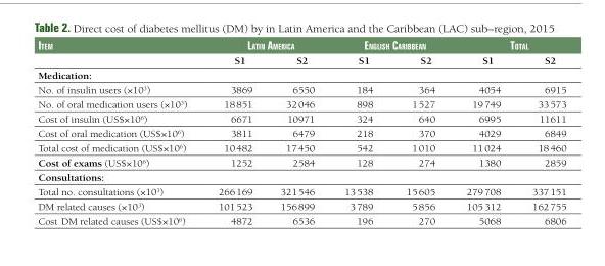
<table><thead><tr><td rowspan="2">Item</td><td colspan="2">LatIn amerIca</td><td colspan="2">engLIsh carIbbean</td><td colspan="2">totaL</td></tr><tr><td>S1</td><td>S2</td><td>S1</td><td>S2</td><td>S1</td><td>S2</td></tr></thead><tbody><tr><td colspan="7">Medication:</td></tr><tr><td>No. of insulin users (×10<sup>3</sup>)</td><td>3869</td><td>6550</td><td>184</td><td>364</td><td>4054</td><td>6915</td></tr><tr><td>No. of oral medication users (×10<sup>3</sup>)</td><td>18 851</td><td>32 046</td><td>898</td><td>1 527</td><td>19 749</td><td>33 573</td></tr><tr><td>Cost of insulin (US$×10<sup>6</sup>)</td><td>6671</td><td>10971</td><td>324</td><td>640</td><td>6995</td><td>11611</td></tr><tr><td>Cost of oral medication (US$×10<sup>6</sup>)</td><td>3811</td><td>6479</td><td>218</td><td>370</td><td>4029</td><td>6849</td></tr><tr><td>Total cost of medication (US$×10<sup>6</sup>)</td><td>10 482</td><td>17 450</td><td>542</td><td>1 010</td><td>11 024</td><td>18 460</td></tr><tr><td>Cost of exams (US$×10<sup>6</sup>)</td><td>1252</td><td>2584</td><td>128</td><td>274</td><td>1380</td><td>2859</td></tr><tr><td colspan="7">Consultations:</td></tr><tr><td>Total no. consultations (×10<sup>3</sup>)</td><td>266 169</td><td>321 546</td><td>13 538</td><td>15 605</td><td>279 708</td><td>337 151</td></tr><tr><td>DM related causes (×10<sup>3</sup>)</td><td>101 523</td><td>156 899</td><td>3 789</td><td>5 856</td><td>105 312</td><td>162 755</td></tr><tr><td>Cost DM related causes (US$×10<sup>6</sup>)</td><td>4872</td><td>6536</td><td>196</td><td>270</td><td>5068</td><td>6806</td></tr></tbody></table>